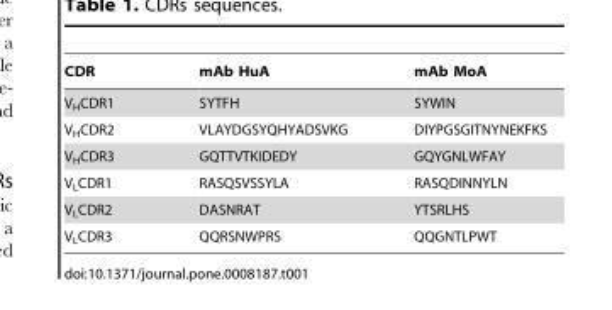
<table><thead><tr><td>CDR</td><td>mAb HuA</td><td>mAb MoA</td></tr></thead><tbody><tr><td>V<sub>H</sub>CDR1</td><td>SYTFH</td><td>SYWIN</td></tr><tr><td>V<sub>H</sub>CDR2</td><td>VLAYDGSYQHYADSVKG</td><td>DIYPGSGITNYNEKFKS</td></tr><tr><td>V<sub>H</sub>CDR3</td><td>GQTTVTKIDEDY</td><td>GQYGNLWFAY</td></tr><tr><td>V<sub>L</sub>CDR1</td><td>RASQSVSSYLA</td><td>RASQDINNYLN</td></tr><tr><td>V<sub>L</sub>CDR2</td><td>DASNRAT</td><td>YTSRLHS</td></tr><tr><td>V<sub>L</sub>CDR3</td><td>QQRSNWPRS</td><td>QQGNTLPWT</td></tr></tbody></table>